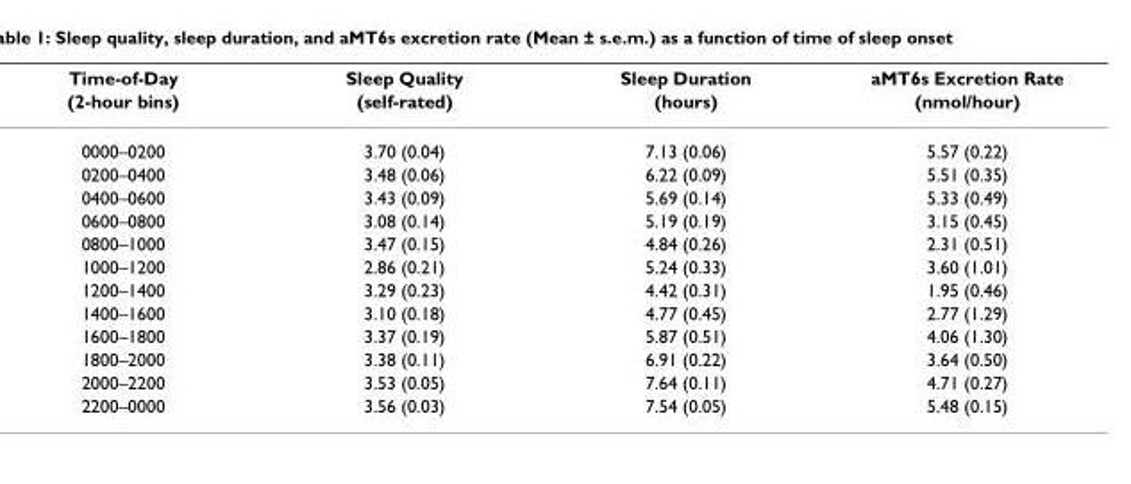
<table><thead><tr><td rowspan="2">Time-of-Day (2-hour bins)</td><td rowspan="2">Sleep Quality (self-rated)</td><td rowspan="2">Sleep Duration (hours)</td><td rowspan="2">aMT6s Excretion Rate (nmol/hour)</td></tr><tr></tr></thead><tbody><tr><td>0000–0200</td><td>3.70 (0.04)</td><td>7.13 (0.06)</td><td>5.57 (0.22)</td></tr><tr><td>0200–0400</td><td>3.48 (0.06)</td><td>6.22 (0.09)</td><td>5.51 (0.35)</td></tr><tr><td>0400–0600</td><td>3.43 (0.09)</td><td>5.69 (0.14)</td><td>5.33 (0.49)</td></tr><tr><td>0600–0800</td><td>3.08 (0.14)</td><td>5.19 (0.19)</td><td>3.15 (0.45)</td></tr><tr><td>0800–1000</td><td>3.47 (0.15)</td><td>4.84 (0.26)</td><td>2.31 (0.51)</td></tr><tr><td>1000–1200</td><td>2.86 (0.21)</td><td>5.24 (0.33)</td><td>3.60 (1.01)</td></tr><tr><td>1200–1400</td><td>3.29 (0.23)</td><td>4.42 (0.31)</td><td>1.95 (0.46)</td></tr><tr><td>1400–1600</td><td>3.10 (0.18)</td><td>4.77 (0.45)</td><td>2.77 (1.29)</td></tr><tr><td>1600–1800</td><td>3.37 (0.19)</td><td>5.87 (0.51)</td><td>4.06 (1.30)</td></tr><tr><td>1800–2000</td><td>3.38 (0.11)</td><td>6.91 (0.22)</td><td>3.64 (0.50)</td></tr><tr><td>2000–2200</td><td>3.53 (0.05)</td><td>7.64 (0.11)</td><td>4.71 (0.27)</td></tr><tr><td>2200–0000</td><td>3.56 (0.03)</td><td>7.54 (0.05)</td><td>5.48 (0.15)</td></tr></tbody></table>